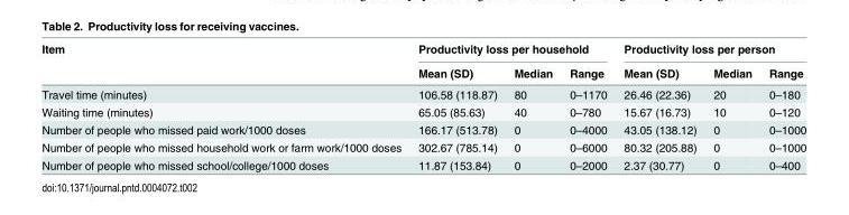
<table><thead><tr><td rowspan="2">Item</td><td colspan="3">Productivity loss per household</td><td colspan="3">Productivity loss per person</td></tr><tr><td>Mean (SD)</td><td>Median</td><td>Range</td><td>Mean (SD)</td><td>Median</td><td>Range</td></tr></thead><tbody><tr><td>Travel time (minutes)</td><td>106.58 (118.87)</td><td>80</td><td>0–1170</td><td>26.46 (22.36)</td><td>20</td><td>0–180</td></tr><tr><td>Waiting time (minutes)</td><td>65.05 (85.63)</td><td>40</td><td>0–780</td><td>15.67 (16.73)</td><td>10</td><td>0–120</td></tr><tr><td>Number of people who missed paid work/1000 doses</td><td>166.17 (513.78)</td><td>0</td><td>0–4000</td><td>43.05 (138.12)</td><td>0</td><td>0–1000</td></tr><tr><td>Number of people who missed household work or farm work/1000 doses</td><td>302.67 (785.14)</td><td>0</td><td>0–6000</td><td>80.32 (205.88)</td><td>0</td><td>0–1000</td></tr><tr><td>Number of people who missed school/college/1000 doses</td><td>11.87 (153.84)</td><td>0</td><td>0–2000</td><td>2.37 (30.77)</td><td>0</td><td>0–400</td></tr></tbody></table>